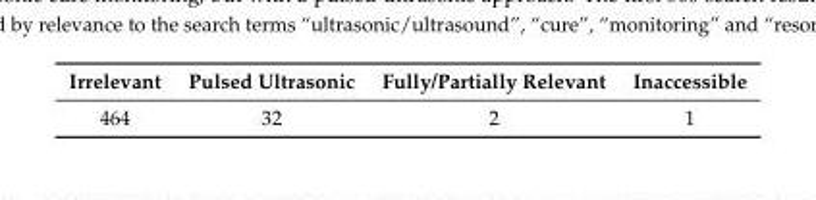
<table><thead><tr><td>Irrelevant</td><td>Pulsed Ultrasonic</td><td>Fully/Partially Relevant</td><td>Inaccessible</td></tr></thead><tbody><tr><td>464</td><td>32</td><td>2</td><td>1</td></tr></tbody></table>